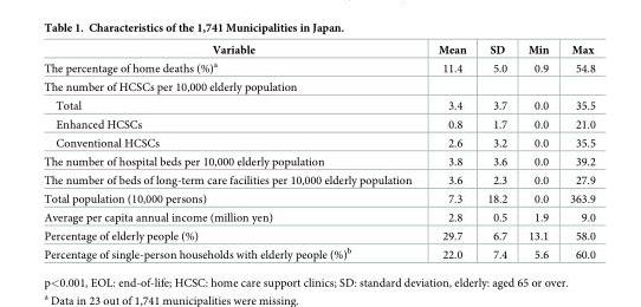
<table><thead><tr><td>Variable</td><td>Mean</td><td>SD</td><td>Min</td><td>Max</td></tr></thead><tbody><tr><td>The percentage of home deaths (%)<sup>a</sup></td><td>11.4</td><td>5.0</td><td>0.9</td><td>54.8</td></tr><tr><td colspan="5">The number of HCSCs per 10,000 elderly population</td></tr><tr><td>Total</td><td>3.4</td><td>3.7</td><td>0.0</td><td>35.5</td></tr><tr><td>Enhanced HCSCs</td><td>0.8</td><td>1.7</td><td>0.0</td><td>21.0</td></tr><tr><td>Conventional HCSCs</td><td>2.6</td><td>3.2</td><td>0.0</td><td>35.5</td></tr><tr><td>The number of hospital beds per 10,000 elderly population</td><td>3.8</td><td>3.6</td><td>0.0</td><td>39.2</td></tr><tr><td>The number of beds of long-term care facilities per 10,000 elderly population</td><td>3.6</td><td>2.3</td><td>0.0</td><td>27.9</td></tr><tr><td>Total population (10,000 persons)</td><td>7.3</td><td>18.2</td><td>0.0</td><td>363.9</td></tr><tr><td>Average per capita annual income (million yen)</td><td>2.8</td><td>0.5</td><td>1.9</td><td>9.0</td></tr><tr><td>Percentage of elderly people (%)</td><td>29.7</td><td>6.7</td><td>13.1</td><td>58.0</td></tr><tr><td>Percentage of single-person households with elderly people (%)<sup>b</sup></td><td>22.0</td><td>7.4</td><td>5.6</td><td>60.0</td></tr></tbody></table>